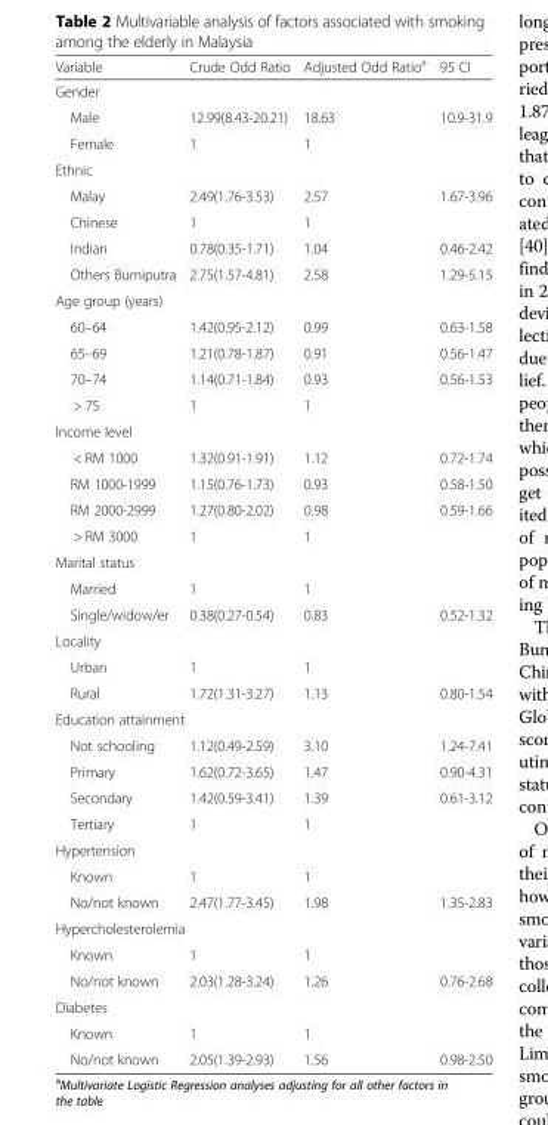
<table><thead><tr><td>Variable</td><td>Crude Odd Ratio</td><td>Adjusted Odd Ratio<sup>a</sup></td><td>95 CI</td></tr></thead><tbody><tr><td colspan="4">Gender</td></tr><tr><td>Male</td><td>12.99(8.43-20.21)</td><td>18.63</td><td>10.9-31.9</td></tr><tr><td>Female</td><td>1</td><td>1</td><td></td></tr><tr><td colspan="4">Ethnic</td></tr><tr><td>Malay</td><td>2.49(1.76-3.53)</td><td>2.57</td><td>1.67-3.96</td></tr><tr><td>Chinese</td><td>1</td><td>1</td><td></td></tr><tr><td>Indian</td><td>0.78(0.35-1.71)</td><td>1.04</td><td>0.46-2.42</td></tr><tr><td>Others Bumiputra</td><td>2.75(1.57-4.81)</td><td>2.58</td><td>1.29-5.15</td></tr><tr><td colspan="4">Age group (years)</td></tr><tr><td>60–64</td><td>1.42(0.95-2.12)</td><td>0.99</td><td>0.63-1.58</td></tr><tr><td>65–69</td><td>1.21(0.78-1.87)</td><td>0.91</td><td>0.56-1.47</td></tr><tr><td>70–74</td><td>1.14(0.71-1.84)</td><td>0.93</td><td>0.56-1.53</td></tr><tr><td>&gt; 75</td><td>1</td><td>1</td><td></td></tr><tr><td colspan="4">Income level</td></tr><tr><td>&lt; RM 1000</td><td>1.32(0.91-1.91)</td><td>1.12</td><td>0.72-1.74</td></tr><tr><td>RM 1000-1999</td><td>1.15(0.76-1.73)</td><td>0.93</td><td>0.58-1.50</td></tr><tr><td>RM 2000-2999</td><td>1.27(0.80-2.02)</td><td>0.98</td><td>0.59-1.66</td></tr><tr><td>&gt; RM 3000</td><td>1</td><td>1</td><td></td></tr><tr><td colspan="4">Marital status</td></tr><tr><td>Married</td><td>1</td><td>1</td><td></td></tr><tr><td>Single/widow/er</td><td>0.38(0.27-0.54)</td><td>0.83</td><td>0.52-1.32</td></tr><tr><td colspan="4">Locality</td></tr><tr><td>Urban</td><td>1</td><td>1</td><td></td></tr><tr><td>Rural</td><td>1.72(1.31-3.27)</td><td>1.13</td><td>0.80-1.54</td></tr><tr><td colspan="4">Education attainment</td></tr><tr><td>Not schooling</td><td>1.12(0.49-2.59)</td><td>3.10</td><td>1.24-7.41</td></tr><tr><td>Primary</td><td>1.62(0.72-3.65)</td><td>1.47</td><td>0.90-4.31</td></tr><tr><td>Secondary</td><td>1.42(0.59-3.41)</td><td>1.39</td><td>0.61-3.12</td></tr><tr><td>Tertiary</td><td>1</td><td>1</td><td></td></tr><tr><td colspan="4">Hypertension</td></tr><tr><td>Known</td><td>1</td><td>1</td><td></td></tr><tr><td>No/not known</td><td>2.47(1.77-3.45)</td><td>1.98</td><td>1.35-2.83</td></tr><tr><td colspan="4">Hypercholesterolemia</td></tr><tr><td>Known</td><td>1</td><td>1</td><td></td></tr><tr><td>No/not known</td><td>2.03(1.28-3.24)</td><td>1.26</td><td>0.76-2.68</td></tr><tr><td colspan="4">Diabetes</td></tr><tr><td>Known</td><td>1</td><td>1</td><td></td></tr><tr><td>No/not known</td><td>2.05(1.39-2.93)</td><td>1.56</td><td>0.98-2.50</td></tr></tbody></table>